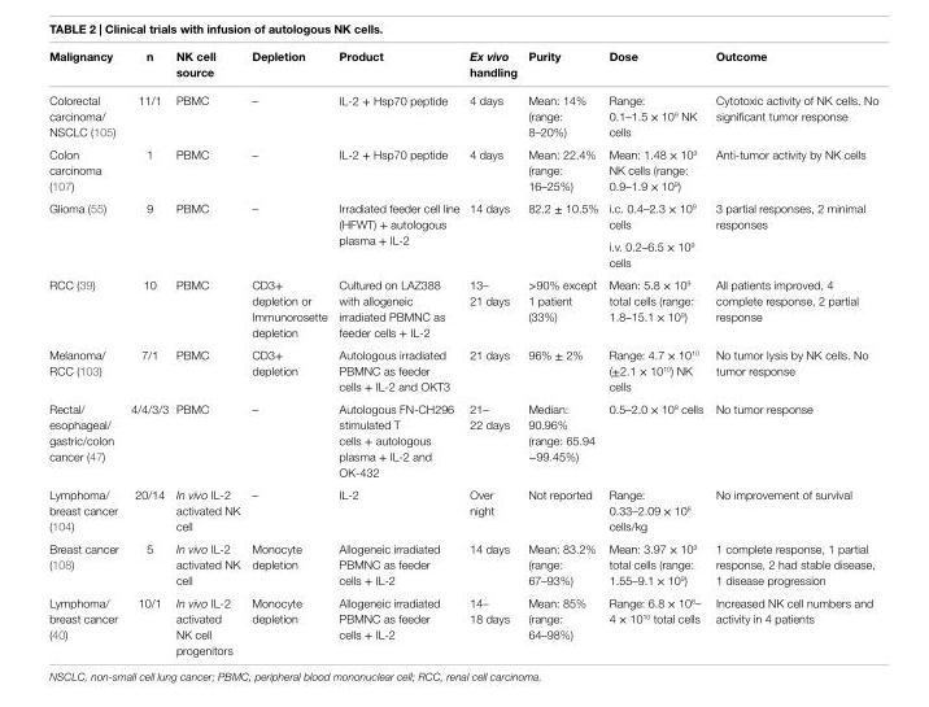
<table><thead><tr><td>Malignancy</td><td>n</td><td>NK cell source</td><td>Depletion</td><td>Product</td><td>Ex vivo handling</td><td>Purity</td><td>Dose</td><td>Outcome</td></tr></thead><tbody><tr><td>Colorectal carcinoma/ NSCLC (105)</td><td>11/1</td><td>PBMC</td><td>–</td><td>IL-2 + Hsp70 peptide</td><td>4 days</td><td>Mean: 14% (range: 8–20%)</td><td>Range: 0.1–1.5 × 10<sup>9</sup> NK cells</td><td>Cytotoxic activity of NK cells. No significant tumor response</td></tr><tr><td>Colon carcinoma (107)</td><td>1</td><td>PBMC</td><td>–</td><td>IL-2 + Hsp70 peptide</td><td>4 days</td><td>Mean: 22.4% (range: 16–25%)</td><td>Mean: 1.48 × 10<sup>9</sup> NK cells (range: 0.9–1.9 × 10<sup>9</sup>)</td><td>Anti-tumor activity by NK cells</td></tr><tr><td rowspan="2">Glioma (55)</td><td rowspan="2">9</td><td rowspan="2">PBMC</td><td rowspan="2">–</td><td rowspan="2">Irradiated feeder cell line (HFWT) + autologous plasma + IL-2</td><td rowspan="2">14 days</td><td rowspan="2">82.2 ± 10.5%</td><td>i.c. 0.4–2.3 × 10<sup>9</sup> cells</td><td rowspan="2">3 partial responses, 2 minimal responses</td></tr><tr><td>i.v. 0.2–6.5 × 10<sup>9</sup> cells</td></tr><tr><td>RCC (39)</td><td>10</td><td>PBMC</td><td>CD3+ depletion or Immunorosette depletion</td><td>Cultured on LAZ388 with allogeneic irradiated PBMNC as feeder cells + IL-2</td><td>13– 21 days</td><td>&gt;90% except 1 patient (33%)</td><td>Mean: 5.8 × 10<sup>9</sup> total cells (range: 1.8–15.1 × 10<sup>9</sup>)</td><td>All patients improved, 4 complete response, 2 partial response</td></tr><tr><td>Melanoma/ RCC (103)</td><td>7/1</td><td>PBMC</td><td>CD3+ depletion</td><td>Autologous irradiated PBMNC as feeder cells + IL-2 and OKT3</td><td>21 days</td><td>96% ± 2%</td><td>Range: 4.7 × 10<sup>10</sup> (±2.1 × 10<sup>10</sup>) NK cells</td><td>No tumor lysis by NK cells. No tumor response</td></tr><tr><td>Rectal/ esophageal/ gastric/colon cancer (47)</td><td>4/4/3/3</td><td>PBMC</td><td>–</td><td>Autologous FN-CH296 stimulated T cells + autologous plasma + IL-2 and OK-432</td><td>21– 22 days</td><td>Median: 90.96% (range: 65.94 −99.45%)</td><td>0.5–2.0 × 10<sup>9</sup> cells</td><td>No tumor response</td></tr><tr><td>Lymphoma/ breast cancer (104)</td><td>20/14</td><td>In vivo IL-2 activated NK cell</td><td>–</td><td>IL-2</td><td>Over night</td><td>Not reported</td><td>Range: 0.33–2.09 × 10<sup>8</sup> cells/kg</td><td>No improvement of survival</td></tr><tr><td>Breast cancer (108)</td><td>5</td><td>In vivo IL-2 activated NK cell</td><td>Monocyte depletion</td><td>Allogeneic irradiated PBMNC as feeder cells + IL-2</td><td>14 days</td><td>Mean: 83.2% (range: 67–93%)</td><td>Mean: 3.97 × 10<sup>9</sup> total cells (range: 1.55–9.1 × 10<sup>9</sup>)</td><td>1 complete response, 1 partial response, 2 had stable disease, 1 disease progression</td></tr><tr><td>Lymphoma/ breast cancer (40)</td><td>10/1</td><td>In vivo IL-2 activated NK cell progenitors</td><td>Monocyte depletion</td><td>Allogeneic irradiated PBMNC as feeder cells + IL-2</td><td>14– 18 days</td><td>Mean: 85% (range: 64–98%)</td><td>Range: 6.8 × 10<sup>8</sup>– 4 × 10<sup>10</sup> total cells</td><td>Increased NK cell numbers and activity in 4 patients</td></tr></tbody></table>